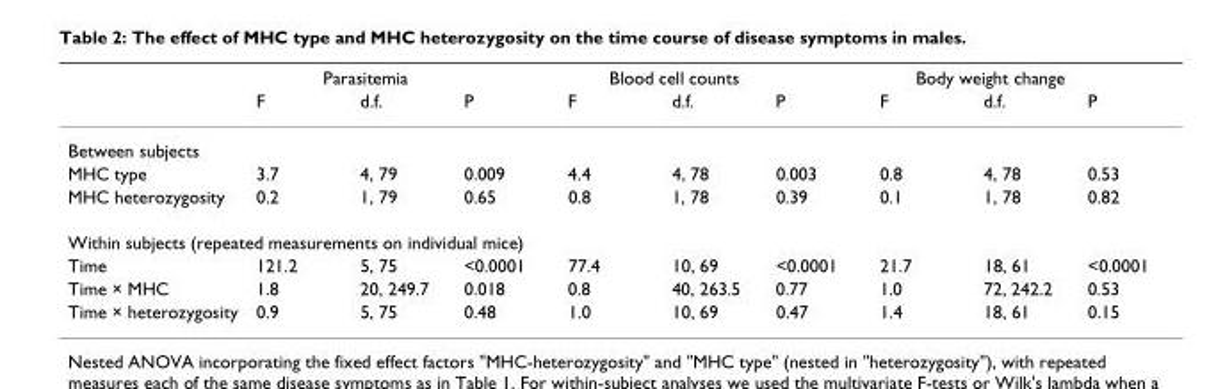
<table><thead><tr><td rowspan="2"></td><td colspan="3">Parasitemia</td><td colspan="3">Blood cell counts</td><td colspan="3">Body weight change</td></tr><tr><td>F</td><td>d.f.</td><td>P</td><td>F</td><td>d.f.</td><td>P</td><td>F</td><td>d.f.</td><td>P</td></tr></thead><tbody><tr><td colspan="10">Between subjects</td></tr><tr><td>MHC type</td><td>3.7</td><td>4, 79</td><td>0.009</td><td>4.4</td><td>4, 78</td><td>0.003</td><td>0.8</td><td>4, 78</td><td>0.53</td></tr><tr><td>MHC heterozygosity</td><td>0.2</td><td>1, 79</td><td>0.65</td><td>0.8</td><td>1, 78</td><td>0.39</td><td>0.1</td><td>1, 78</td><td>0.82</td></tr><tr><td colspan="10">Within subjects (repeated measurements on individual mice)</td></tr><tr><td>Time</td><td>121.2</td><td>5, 75</td><td>&lt;0.0001</td><td>77.4</td><td>10, 69</td><td>&lt;0.0001</td><td>21.7</td><td>18, 61</td><td>&lt;0.0001</td></tr><tr><td>Time × MHC</td><td>1.8</td><td>20, 249.7</td><td>0.018</td><td>0.8</td><td>40, 263.5</td><td>0.77</td><td>1.0</td><td>72, 242.2</td><td>0.53</td></tr><tr><td>Time × heterozygosity</td><td>0.9</td><td>5, 75</td><td>0.48</td><td>1.0</td><td>10, 69</td><td>0.47</td><td>1.4</td><td>18, 61</td><td>0.15</td></tr></tbody></table>